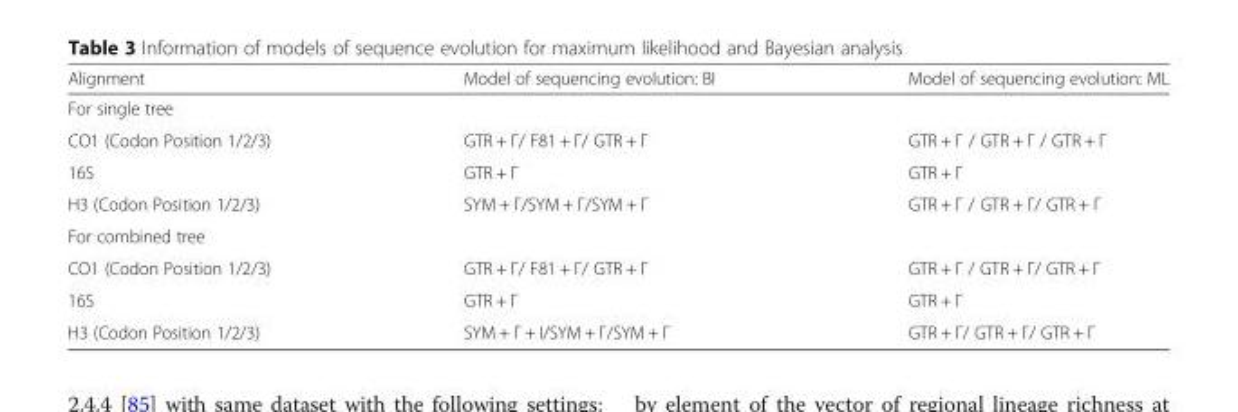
<table><thead><tr><td>Alignment</td><td>Model of sequencing evolution: BI</td><td>Model of sequencing evolution: ML</td></tr></thead><tbody><tr><td colspan="3">For single tree</td></tr><tr><td>CO1 (Codon Position 1/2/3)</td><td>GTR + Γ/ F81 + Γ/ GTR + Γ</td><td>GTR + Γ / GTR + Γ / GTR + Γ</td></tr><tr><td>16S</td><td>GTR + Γ</td><td>GTR + Γ</td></tr><tr><td>H3 (Codon Position 1/2/3)</td><td>SYM + Γ/SYM + Γ/SYM + Γ</td><td>GTR + Γ / GTR + Γ/ GTR + Γ</td></tr><tr><td colspan="3">For combined tree</td></tr><tr><td>CO1 (Codon Position 1/2/3)</td><td>GTR + Γ/ F81 + Γ/ GTR + Γ</td><td>GTR + Γ / GTR + Γ/ GTR + Γ</td></tr><tr><td>16S</td><td>GTR + Γ</td><td>GTR + Γ</td></tr><tr><td>H3 (Codon Position 1/2/3)</td><td>SYM + Γ + I/SYM + Γ/SYM + Γ</td><td>GTR + Γ/ GTR + Γ/ GTR + Γ</td></tr></tbody></table>